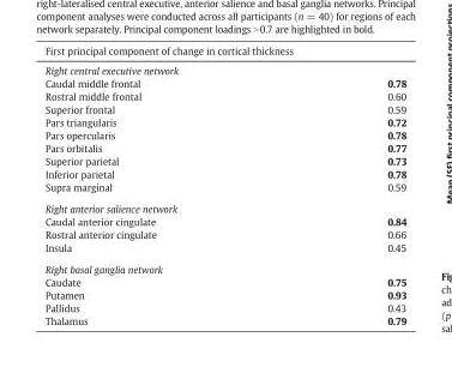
<table><thead><tr><td rowspan="2" colspan="2">First principal component of change in cortical thickness Right central executive network</td></tr><tr></tr><tr><td>Caudal middle frontal</td><td>0.78</td></tr></thead><tbody><tr><td>Rostral middle frontal</td><td>0.60</td></tr><tr><td>Superior frontal</td><td>0.59</td></tr><tr><td>Pars triangularis</td><td>0.72</td></tr><tr><td>Pars opercularis</td><td>0.78</td></tr><tr><td>Pars orbitalis</td><td>0.77</td></tr><tr><td>Superior parietal</td><td>0.73</td></tr><tr><td>Inferior parietal</td><td>0.78</td></tr><tr><td>Supra marginal</td><td>0.59</td></tr><tr><td colspan="2">Right anterior salience network</td></tr><tr><td>Caudal anterior cingulate</td><td>0.84</td></tr><tr><td>Rostral anterior cingulate</td><td>0.66</td></tr><tr><td>Insula</td><td>0.45</td></tr><tr><td colspan="2">Right basal ganglia network</td></tr><tr><td>Caudate</td><td>0.75</td></tr><tr><td>Putamen</td><td>0.93</td></tr><tr><td>Pallidus</td><td>0.43</td></tr><tr><td>Thalamus</td><td>0.79</td></tr></tbody></table>